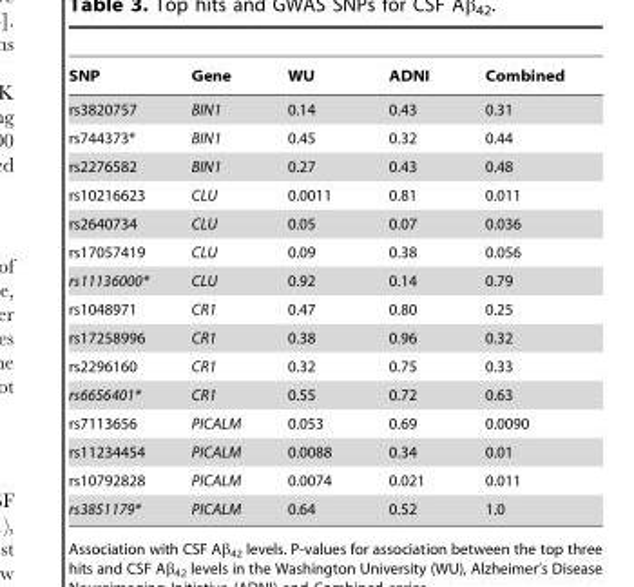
<table><thead><tr><td>SNP</td><td>Gene</td><td>WU</td><td>ADNI</td><td>Combined</td></tr></thead><tbody><tr><td>rs3820757</td><td>BIN1</td><td>0.14</td><td>0.43</td><td>0.31</td></tr><tr><td>rs744373*</td><td>BIN1</td><td>0.45</td><td>0.32</td><td>0.44</td></tr><tr><td>rs2276582</td><td>BIN1</td><td>0.27</td><td>0.43</td><td>0.48</td></tr><tr><td>rs10216623</td><td>CLU</td><td>0.0011</td><td>0.81</td><td>0.011</td></tr><tr><td>rs2640734</td><td>CLU</td><td>0.05</td><td>0.07</td><td>0.036</td></tr><tr><td>rs17057419</td><td>CLU</td><td>0.09</td><td>0.38</td><td>0.056</td></tr><tr><td>rs11136000*</td><td>CLU</td><td>0.92</td><td>0.14</td><td>0.79</td></tr><tr><td>rs1048971</td><td>CR1</td><td>0.47</td><td>0.80</td><td>0.25</td></tr><tr><td>rs17258996</td><td>CR1</td><td>0.38</td><td>0.96</td><td>0.32</td></tr><tr><td>rs2296160</td><td>CR1</td><td>0.32</td><td>0.75</td><td>0.33</td></tr><tr><td>rs6656401*</td><td>CR1</td><td>0.55</td><td>0.72</td><td>0.63</td></tr><tr><td>rs7113656</td><td>PICALM</td><td>0.053</td><td>0.69</td><td>0.0090</td></tr><tr><td>rs11234454</td><td>PICALM</td><td>0.0088</td><td>0.34</td><td>0.01</td></tr><tr><td>rs10792828</td><td>PICALM</td><td>0.0074</td><td>0.021</td><td>0.011</td></tr><tr><td>rs3851179*</td><td>PICALM</td><td>0.64</td><td>0.52</td><td>1.0</td></tr></tbody></table>